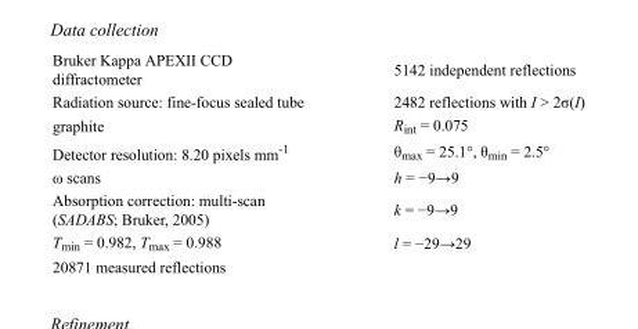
<table><tbody><tr><td>Bruker Kappa APEXII CCD diffractometer</td><td>5142 independent reflections</td></tr><tr><td>Radiation source: fine-focus sealed tube</td><td>2482 reflections with I &gt; 2σ(I)</td></tr><tr><td>graphite</td><td>R<sub>int</sub> = 0.075</td></tr><tr><td>Detector resolution: 8.20 pixels mm<sup>-1</sup></td><td>θ<sub>max</sub> = 25.1°, θ<sub>min</sub> = 2.5°</td></tr><tr><td>ω scans</td><td>h = −9→9</td></tr><tr><td>Absorption correction: multi-scan (SADABS; Bruker, 2005)</td><td>k = −9→9</td></tr><tr><td>T<sub>min</sub> = 0.982, T<sub>max</sub> = 0.988</td><td>l = −29→29</td></tr><tr><td>20871 measured reflections</td><td></td></tr></tbody></table>